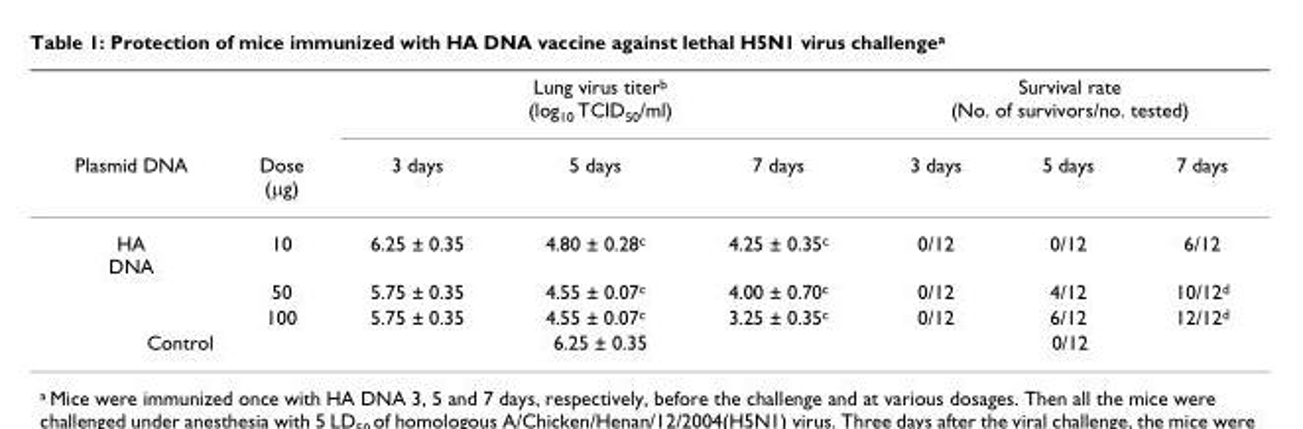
<table><thead><tr><td rowspan="2">Plasmid DNA</td><td rowspan="2">Dose (μg)</td><td colspan="3">Lung virus titer<sup>b</sup> (log<sub>10</sub> TCID<sub>50</sub>/ml)</td><td colspan="3">Survival rate (No. of survivors/no. tested)</td></tr><tr><td>3 days</td><td>5 days</td><td>7 days</td><td>3 days</td><td>5 days</td><td>7 days</td></tr></thead><tbody><tr><td rowspan="3">HA DNA</td><td>10</td><td>6.25 ± 0.35</td><td>4.80 ± 0.28<sup>c</sup></td><td>4.25 ± 0.35<sup>c</sup></td><td>0/12</td><td>0/12</td><td>6/12</td></tr><tr><td>50</td><td>5.75 ± 0.35</td><td>4.55 ± 0.07<sup>c</sup></td><td>4.00 ± 0.70<sup>c</sup></td><td>0/12</td><td>4/12</td><td>10/12<sup>d</sup></td></tr><tr><td>100</td><td>5.75 ± 0.35</td><td>4.55 ± 0.07<sup>c</sup></td><td>3.25 ± 0.35<sup>c</sup></td><td>0/12</td><td>6/12</td><td>12/12<sup>d</sup></td></tr><tr><td colspan="2">Control</td><td colspan="3">6.25 ± 0.35</td><td colspan="3">0/12</td></tr></tbody></table>